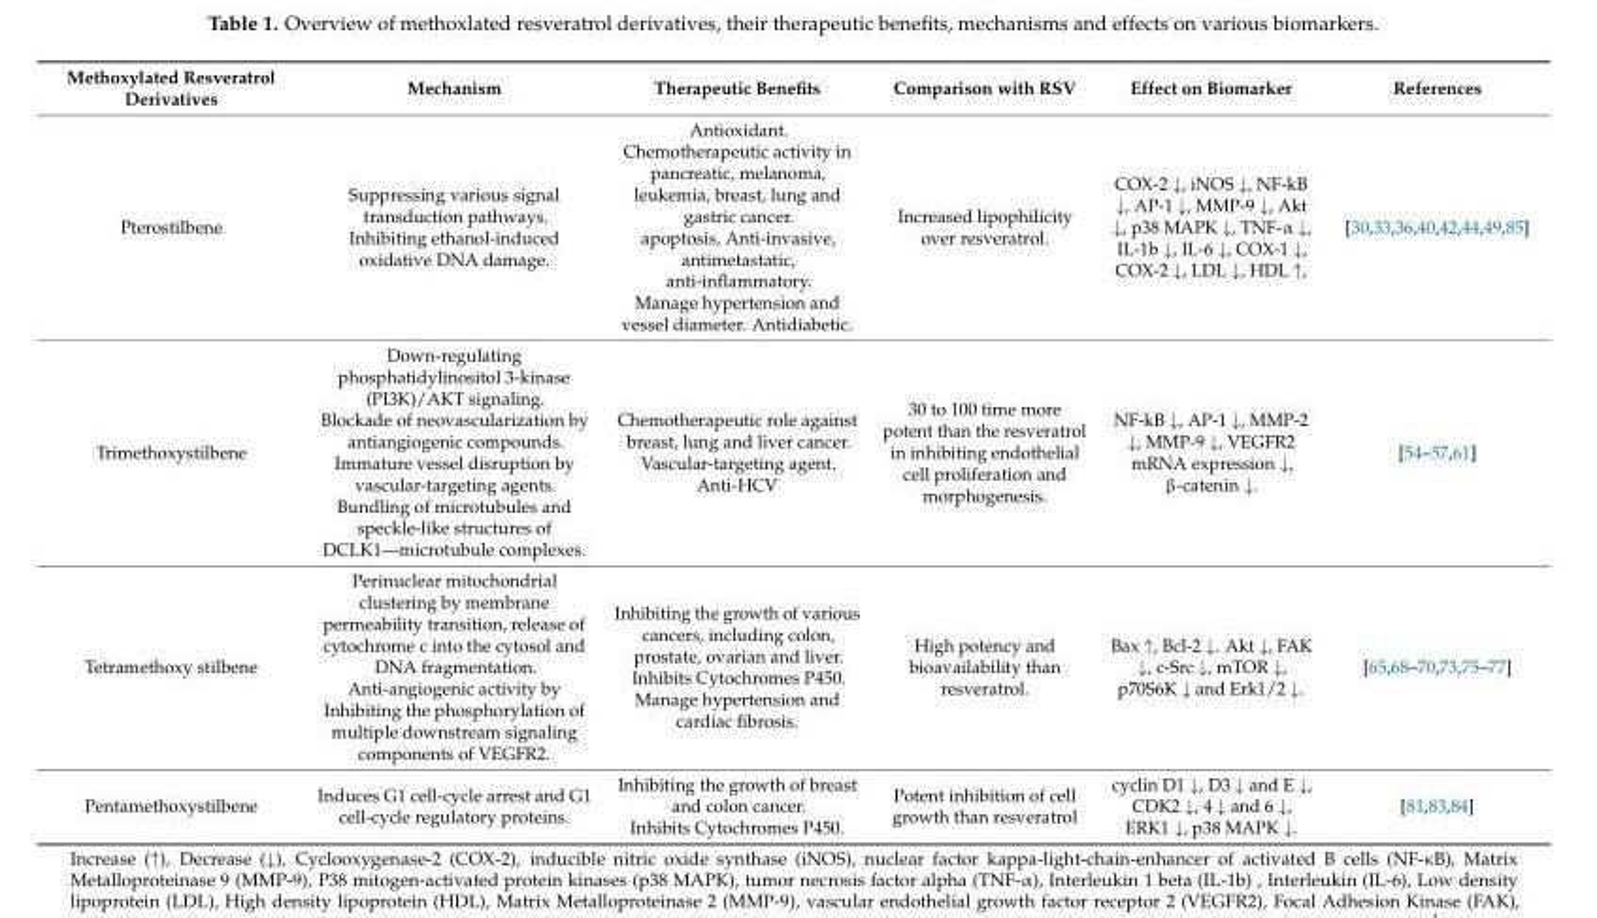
<table><thead><tr><td>Methoxylated Resveratrol Derivatives</td><td>Mechanism</td><td>Therapeutic Benefits</td><td>Comparison with RSV</td><td>Effect on Biomarker</td><td>References</td></tr></thead><tbody><tr><td>Pterostilbene</td><td>Suppressing various signal transduction pathways. Inhibiting ethanol-induced oxidative DNA damage.</td><td>Antioxidant. Chemotherapeutic activity in pancreatic, melanoma, leukemia, breast, lung and gastric cancer. apoptosis, Anti-invasive, antimetastatic, anti-inflammatory. Manage hypertension and vessel diameter. Antidiabetic.</td><td>Increased lipophilicity over resveratrol.</td><td>COX-2 ↓, iNOS ↓, NF-kB ↓, AP-1 ↓, MMP-9 ↓, Akt ↓, p38 MAPK ↓, TNF-α ↓, IL-1b ↓, IL-6 ↓, COX-1 ↓, COX-2 ↓, LDL ↓, HDL ↑,</td><td>[30,33,36,40,42,44,49,85]</td></tr><tr><td>Trimethoxystilbene</td><td>Down-regulating phosphatidylinositol 3-kinase (PI3K)/AKT signaling. Blockade of neovascularization by antiangiogenic compounds. Immature vessel disruption by vascular-targeting agents. Bundling of microtubules and speckle-like structures of DCLK1—microtubule complexes.</td><td>Chemotherapeutic role against breast, lung and liver cancer. Vascular-targeting agent. Anti-HCV</td><td>30 to 100 time more potent than the resveratrol in inhibiting endothelial cell proliferation and morphogenesis.</td><td>NF-kB ↓, AP-1 ↓, MMP-2 ↓, MMP-9 ↓, VEGFR2 mRNA expression ↓, β-catenin ↓.</td><td>[54–57,61]</td></tr><tr><td>Tetramethoxy stilbene</td><td>Perinuclear mitochondrial clustering by membrane permeability transition, release of cytochrome c into the cytosol and DNA fragmentation. Anti-angiogenic activity by Inhibiting the phosphorylation of multiple downstream signaling components of VEGFR2.</td><td>Inhibiting the growth of various cancers, including colon, prostate, ovarian and liver. Inhibits Cytochromes P450. Manage hypertension and cardiac fibrosis.</td><td>High potency and bioavailability than resveratrol.</td><td>Bax ↑, Bcl-2 ↓. Akt ↓, FAK ↓, c-Src ↓, mTOR ↓, p70S6K ↓ and Erk1/2 ↓.</td><td>[65,68–70,73,75–77]</td></tr><tr><td>Pentamethoxystilbene</td><td>Induces G1 cell-cycle arrest and G1 cell-cycle regulatory proteins.</td><td>Inhibiting the growth of breast and colon cancer. Inhibits Cytochromes P450.</td><td>Potent inhibition of cell growth than resveratrol</td><td>cyclin D1 ↓, D3 ↓ and E ↓, CDK2 ↓, 4 ↓ and 6 ↓, ERK1 ↓, p38 MAPK ↓.</td><td>[81,83,84]</td></tr></tbody></table>